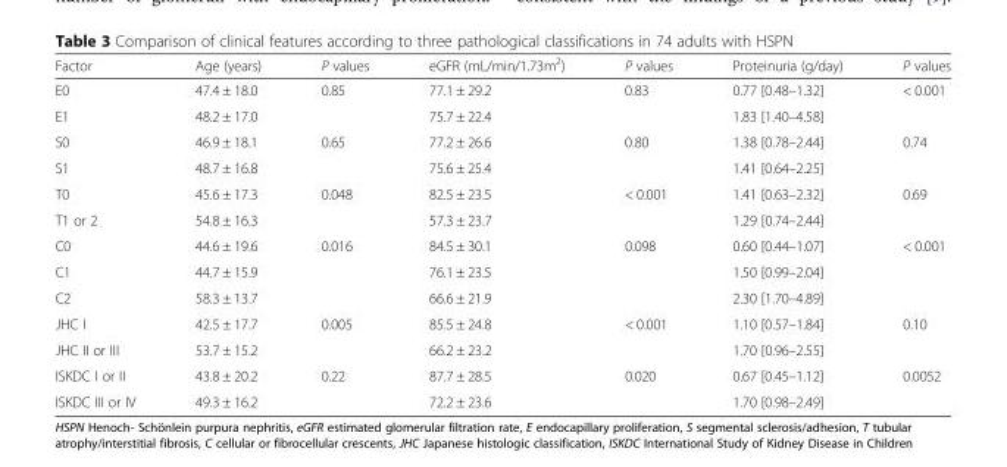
<table><thead><tr><td>Factor</td><td>Age (years)</td><td>P values</td><td>eGFR (mL/min/1.73m<sup>2</sup>)</td><td>P values</td><td>Proteinuria (g/day)</td><td>P values</td></tr></thead><tbody><tr><td>E0</td><td>47.4 ± 18.0</td><td>0.85</td><td>77.1 ± 29.2</td><td>0.83</td><td>0.77 [0.48–1.32]</td><td>&lt; 0.001</td></tr><tr><td>E1</td><td>48.2 ± 17.0</td><td></td><td>75.7 ± 22.4</td><td></td><td>1.83 [1.40–4.58]</td><td></td></tr><tr><td>S0</td><td>46.9 ± 18.1</td><td>0.65</td><td>77.2 ± 26.6</td><td>0.80</td><td>1.38 [0.78–2.44]</td><td>0.74</td></tr><tr><td>S1</td><td>48.7 ± 16.8</td><td></td><td>75.6 ± 25.4</td><td></td><td>1.41 [0.64–2.25]</td><td></td></tr><tr><td>T0</td><td>45.6 ± 17.3</td><td>0.048</td><td>82.5 ± 23.5</td><td>&lt; 0.001</td><td>1.41 [0.63–2.32]</td><td>0.69</td></tr><tr><td>T1 or 2</td><td>54.8 ± 16.3</td><td></td><td>57.3 ± 23.7</td><td></td><td>1.29 [0.74–2.44]</td><td></td></tr><tr><td>C0</td><td>44.6 ± 19.6</td><td>0.016</td><td>84.5 ± 30.1</td><td>0.098</td><td>0.60 [0.44–1.07]</td><td>&lt; 0.001</td></tr><tr><td>C1</td><td>44.7 ± 15.9</td><td></td><td>76.1 ± 23.5</td><td></td><td>1.50 [0.99–2.04]</td><td></td></tr><tr><td>C2</td><td>58.3 ± 13.7</td><td></td><td>66.6 ± 21.9</td><td></td><td>2.30 [1.70–4.89]</td><td></td></tr><tr><td>JHC I</td><td>42.5 ± 17.7</td><td>0.005</td><td>85.5 ± 24.8</td><td>&lt; 0.001</td><td>1.10 [0.57–1.84]</td><td>0.10</td></tr><tr><td>JHC II or III</td><td>53.7 ± 15.2</td><td></td><td>66.2 ± 23.2</td><td></td><td>1.70 [0.96–2.55]</td><td></td></tr><tr><td>ISKDC I or II</td><td>43.8 ± 20.2</td><td>0.22</td><td>87.7 ± 28.5</td><td>0.020</td><td>0.67 [0.45–1.12]</td><td>0.0052</td></tr><tr><td>ISKDC III or IV</td><td>49.3 ± 16.2</td><td></td><td>72.2 ± 23.6</td><td></td><td>1.70 [0.98–2.49]</td><td></td></tr></tbody></table>